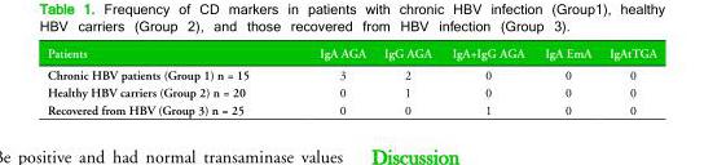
<table><thead><tr><td>Patients</td><td>IgA AGA</td><td>IgG AGA</td><td>IgA+IgG AGA</td><td>IgA EmA</td><td>IgAtTGA</td></tr></thead><tbody><tr><td>Chronic HBV patients (Group 1) n = 15</td><td>3</td><td>2</td><td>0</td><td>0</td><td>0</td></tr><tr><td>Healthy HBV carriers (Group 2) n = 20</td><td>0</td><td>1</td><td>0</td><td>0</td><td>0</td></tr><tr><td>Recovered from HBV (Group 3) n = 25</td><td>0</td><td>0</td><td>1</td><td>0</td><td>0</td></tr></tbody></table>